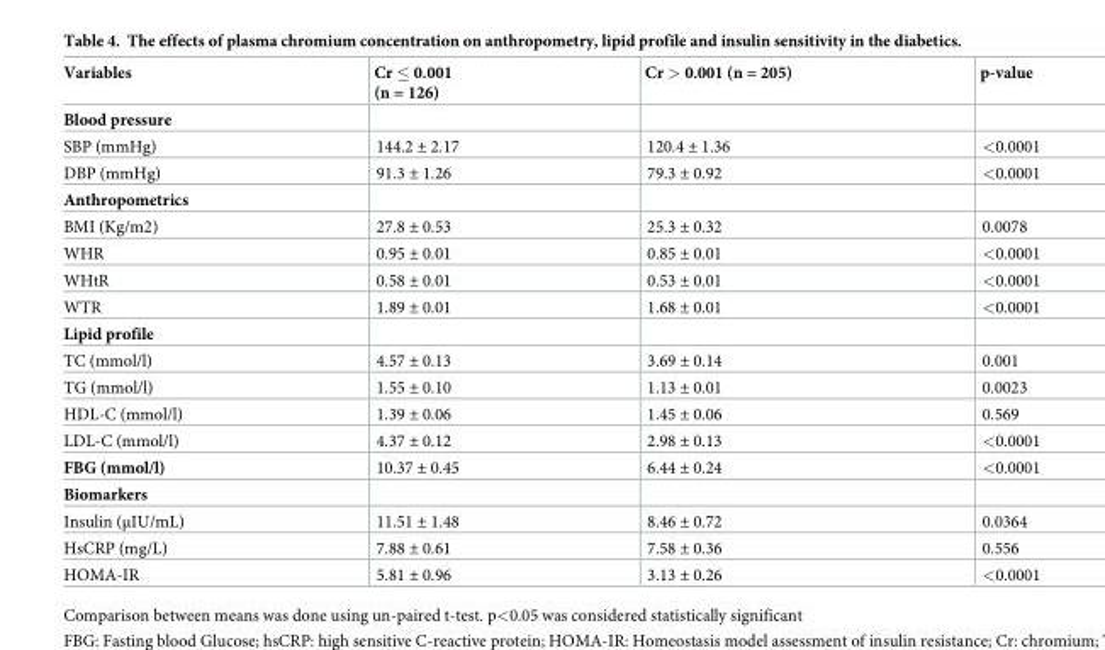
<table><thead><tr><td>Variables</td><td>Cr ≤ 0.001 (n = 126)</td><td>Cr &gt; 0.001 (n = 205)</td><td>p-value</td></tr></thead><tbody><tr><td colspan="4">Blood pressure</td></tr><tr><td>SBP (mmHg)</td><td>144.2 ± 2.17</td><td>120.4 ± 1.36</td><td>&lt;0.0001</td></tr><tr><td>DBP (mmHg)</td><td>91.3 ± 1.26</td><td>79.3 ± 0.92</td><td>&lt;0.0001</td></tr><tr><td colspan="4">Anthropometrics</td></tr><tr><td>BMI (Kg/m2)</td><td>27.8 ± 0.53</td><td>25.3 ± 0.32</td><td>0.0078</td></tr><tr><td>WHR</td><td>0.95 ± 0.01</td><td>0.85 ± 0.01</td><td>&lt;0.0001</td></tr><tr><td>WHtR</td><td>0.58 ± 0.01</td><td>0.53 ± 0.01</td><td>&lt;0.0001</td></tr><tr><td>WTR</td><td>1.89 ± 0.01</td><td>1.68 ± 0.01</td><td>&lt;0.0001</td></tr><tr><td colspan="4">Lipid profile</td></tr><tr><td>TC (mmol/l)</td><td>4.57 ± 0.13</td><td>3.69 ± 0.14</td><td>0.001</td></tr><tr><td>TG (mmol/l)</td><td>1.55 ± 0.10</td><td>1.13 ± 0.01</td><td>0.0023</td></tr><tr><td>HDL-C (mmol/l)</td><td>1.39 ± 0.06</td><td>1.45 ± 0.06</td><td>0.569</td></tr><tr><td>LDL-C (mmol/l)</td><td>4.37 ± 0.12</td><td>2.98 ± 0.13</td><td>&lt;0.0001</td></tr><tr><td>FBG (mmol/l)</td><td>10.37 ± 0.45</td><td>6.44 ± 0.24</td><td>&lt;0.0001</td></tr><tr><td colspan="4">Biomarkers</td></tr><tr><td>Insulin (μIU/mL)</td><td>11.51 ± 1.48</td><td>8.46 ± 0.72</td><td>0.0364</td></tr><tr><td>HsCRP (mg/L)</td><td>7.88 ± 0.61</td><td>7.58 ± 0.36</td><td>0.556</td></tr><tr><td>HOMA-IR</td><td>5.81 ± 0.96</td><td>3.13 ± 0.26</td><td>&lt;0.0001</td></tr></tbody></table>